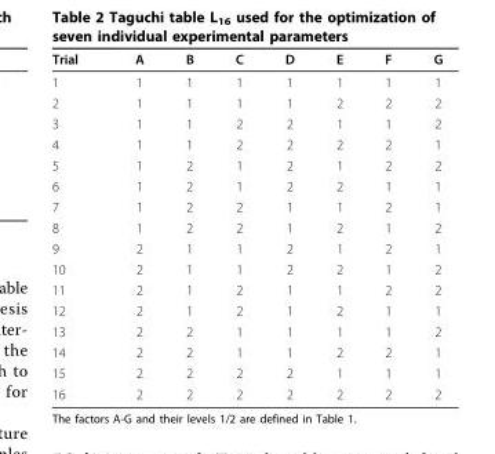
<table><thead><tr><td>Trial</td><td>A</td><td>B</td><td>C</td><td>D</td><td>E</td><td>F</td><td>G</td></tr></thead><tbody><tr><td>1</td><td>1</td><td>1</td><td>1</td><td>1</td><td>1</td><td>1</td><td>1</td></tr><tr><td>2</td><td>1</td><td>1</td><td>1</td><td>1</td><td>2</td><td>2</td><td>2</td></tr><tr><td>3</td><td>1</td><td>1</td><td>2</td><td>2</td><td>1</td><td>1</td><td>2</td></tr><tr><td>4</td><td>1</td><td>1</td><td>2</td><td>2</td><td>2</td><td>2</td><td>1</td></tr><tr><td>5</td><td>1</td><td>2</td><td>1</td><td>2</td><td>1</td><td>2</td><td>2</td></tr><tr><td>6</td><td>1</td><td>2</td><td>1</td><td>2</td><td>2</td><td>1</td><td>1</td></tr><tr><td>7</td><td>1</td><td>2</td><td>2</td><td>1</td><td>1</td><td>2</td><td>1</td></tr><tr><td>8</td><td>1</td><td>2</td><td>2</td><td>1</td><td>2</td><td>1</td><td>2</td></tr><tr><td>9</td><td>2</td><td>1</td><td>1</td><td>2</td><td>1</td><td>2</td><td>1</td></tr><tr><td>10</td><td>2</td><td>1</td><td>1</td><td>2</td><td>2</td><td>1</td><td>2</td></tr><tr><td>11</td><td>2</td><td>1</td><td>2</td><td>1</td><td>1</td><td>2</td><td>2</td></tr><tr><td>12</td><td>2</td><td>1</td><td>2</td><td>1</td><td>2</td><td>1</td><td>1</td></tr><tr><td>13</td><td>2</td><td>2</td><td>1</td><td>1</td><td>1</td><td>1</td><td>2</td></tr><tr><td>14</td><td>2</td><td>2</td><td>1</td><td>1</td><td>2</td><td>2</td><td>1</td></tr><tr><td>15</td><td>2</td><td>2</td><td>2</td><td>2</td><td>1</td><td>1</td><td>1</td></tr><tr><td>16</td><td>2</td><td>2</td><td>2</td><td>2</td><td>2</td><td>2</td><td>2</td></tr></tbody></table>